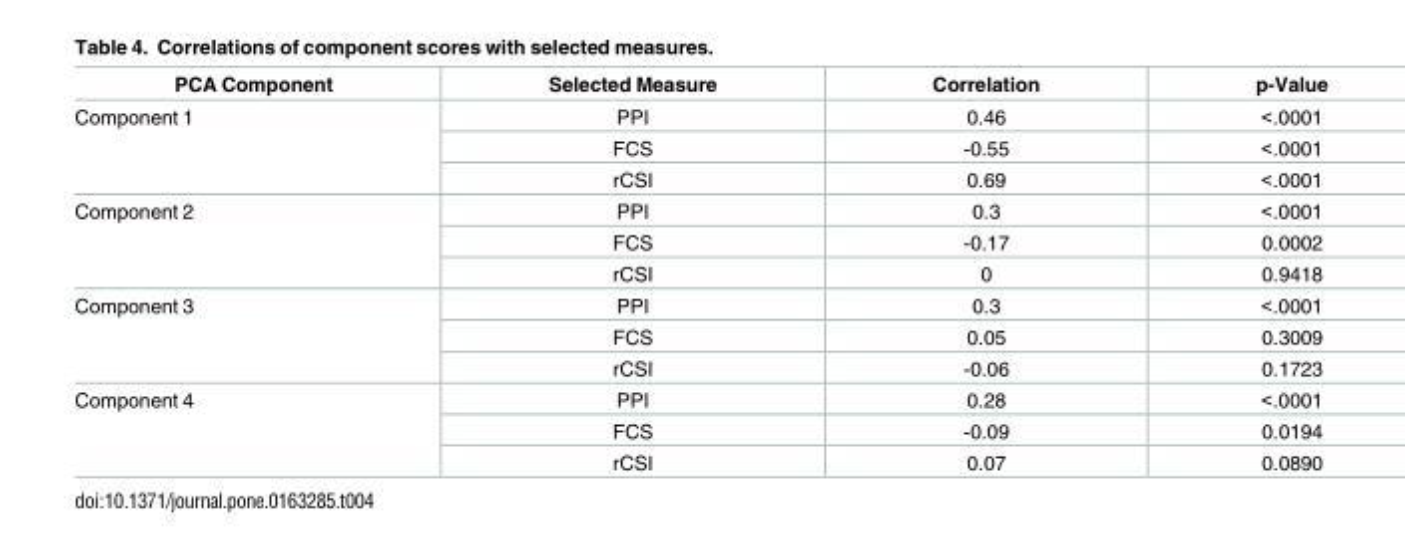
<table><thead><tr><td>PCA Component</td><td>Selected Measure</td><td>Correlation</td><td>p-Value</td></tr></thead><tbody><tr><td rowspan="3">Component 1</td><td>PPI</td><td>0.46</td><td>&lt;.0001</td></tr><tr><td>FCS</td><td>-0.55</td><td>&lt;.0001</td></tr><tr><td>rCSI</td><td>0.69</td><td>&lt;.0001</td></tr><tr><td rowspan="3">Component 2</td><td>PPI</td><td>0.3</td><td>&lt;.0001</td></tr><tr><td>FCS</td><td>-0.17</td><td>0.0002</td></tr><tr><td>rCSI</td><td>0</td><td>0.9418</td></tr><tr><td rowspan="3">Component 3</td><td>PPI</td><td>0.3</td><td>&lt;.0001</td></tr><tr><td>FCS</td><td>0.05</td><td>0.3009</td></tr><tr><td>rCSI</td><td>-0.06</td><td>0.1723</td></tr><tr><td rowspan="3">Component 4</td><td>PPI</td><td>0.28</td><td>&lt;.0001</td></tr><tr><td>FCS</td><td>-0.09</td><td>0.0194</td></tr><tr><td>rCSI</td><td>0.07</td><td>0.0890</td></tr></tbody></table>